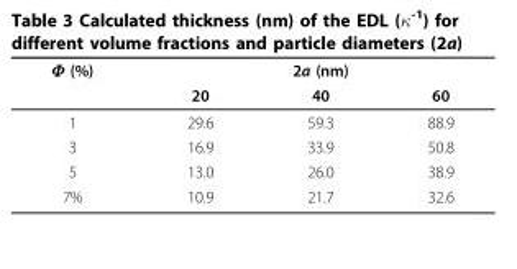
<table><thead><tr><td rowspan="2">(%)</td><td colspan="3">2a (nm)</td></tr><tr><td>20</td><td>40</td><td>60</td></tr></thead><tbody><tr><td>1</td><td>29.6</td><td>59.3</td><td>88.9</td></tr><tr><td>3</td><td>16.9</td><td>33.9</td><td>50.8</td></tr><tr><td>5</td><td>13.0</td><td>26.0</td><td>38.9</td></tr><tr><td>7%</td><td>10.9</td><td>21.7</td><td>32.6</td></tr></tbody></table>